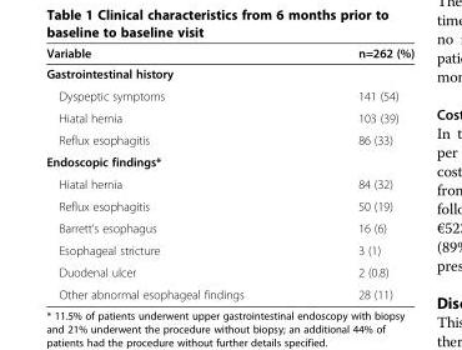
<table><thead><tr><td>Variable</td><td>n=262 (%)</td></tr></thead><tbody><tr><td colspan="2">Gastrointestinal history</td></tr><tr><td>Dyspeptic symptoms</td><td>141 (54)</td></tr><tr><td>Hiatal hernia</td><td>103 (39)</td></tr><tr><td>Reflux esophagitis</td><td>86 (33)</td></tr><tr><td colspan="2">Endoscopic findings*</td></tr><tr><td>Hiatal hernia</td><td>84 (32)</td></tr><tr><td>Reflux esophagitis</td><td>50 (19)</td></tr><tr><td>Barrett’s esophagus</td><td>16 (6)</td></tr><tr><td>Esophageal stricture</td><td>3 (1)</td></tr><tr><td>Duodenal ulcer</td><td>2 (0.8)</td></tr><tr><td>Other abnormal esophageal findings</td><td>28 (11)</td></tr></tbody></table>